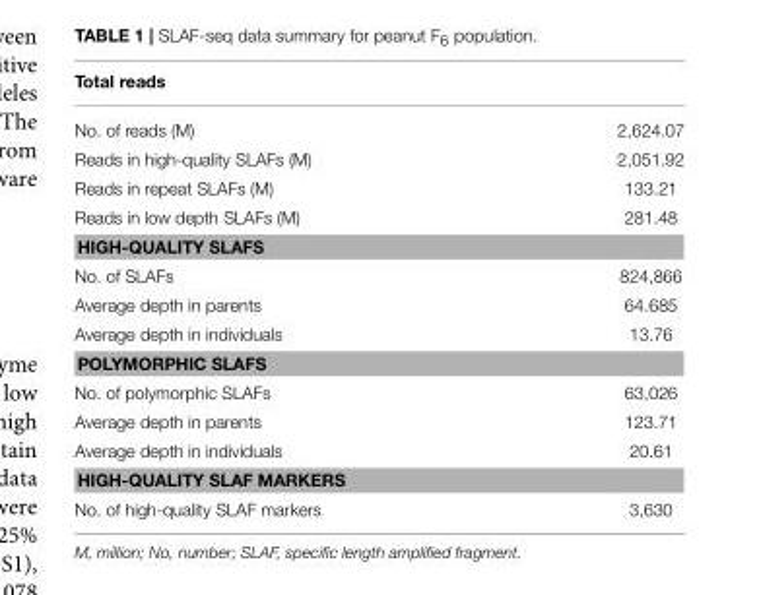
<table><thead><tr><td>Total reads</td><td></td></tr></thead><tbody><tr><td>No. of reads (M)</td><td>2,624.07</td></tr><tr><td>Reads in high-quality SLAFs (M)</td><td>2,051.92</td></tr><tr><td>Reads in repeat SLAFs (M)</td><td>133.21</td></tr><tr><td>Reads in low depth SLAFs (M)</td><td>281.48</td></tr><tr><td colspan="2">HIGH-QUALITY SLAFS</td></tr><tr><td>No. of SLAFs</td><td>824,866</td></tr><tr><td>Average depth in parents</td><td>64.685</td></tr><tr><td>Average depth in individuals</td><td>13.76</td></tr><tr><td colspan="2">POLYMORPHIC SLAFS</td></tr><tr><td>No. of polymorphic SLAFs</td><td>63,026</td></tr><tr><td>Average depth in parents</td><td>123.71</td></tr><tr><td>Average depth in individuals</td><td>20.61</td></tr><tr><td colspan="2">HIGH-QUALITY SLAF MARKERS</td></tr><tr><td>No. of high-quality SLAF markers</td><td>3,630</td></tr></tbody></table>